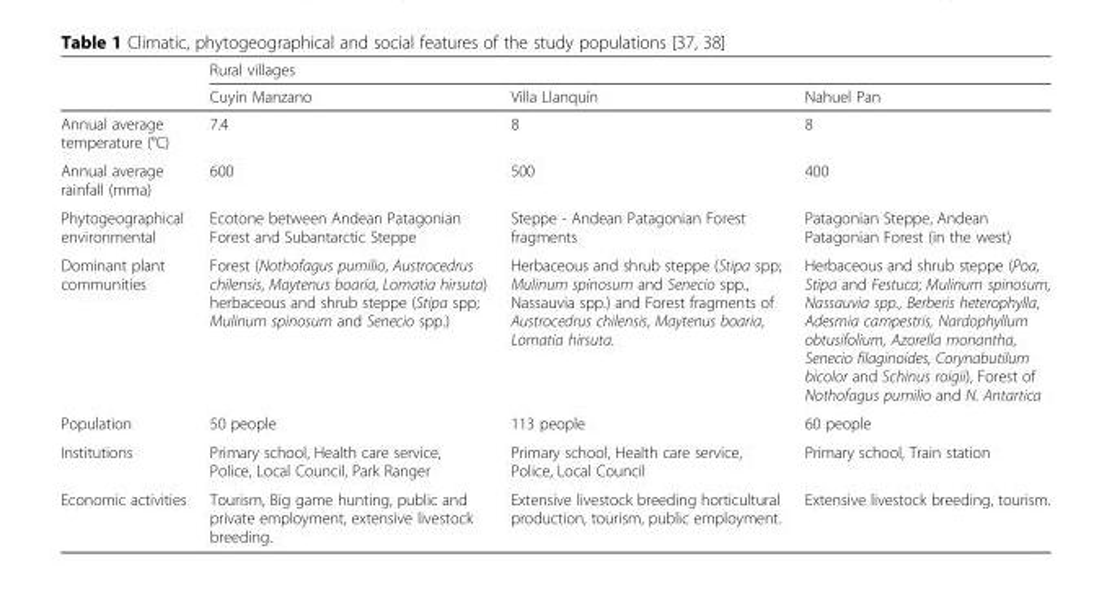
<table><thead><tr><td rowspan="2"></td><td colspan="3">Rural villages</td></tr><tr><td>Cuyín Manzano</td><td>Villa Llanquín</td><td>Nahuel Pan</td></tr></thead><tbody><tr><td>Annual average temperature (°C)</td><td>7.4</td><td>8</td><td>8</td></tr><tr><td>Annual average rainfall (mma)</td><td>600</td><td>500</td><td>400</td></tr><tr><td>Phytogeographical environmental</td><td>Ecotone between Andean Patagonian Forest and Subantarctic Steppe</td><td>Steppe - Andean Patagonian Forest fragments</td><td>Patagonian Steppe, Andean Patagonian Forest (in the west)</td></tr><tr><td>Dominant plant communities</td><td>Forest (Nothofagus pumilio, Austrocedrus chilensis, Maytenus boaria, Lomatia hirsuta) herbaceous and shrub steppe (Stipa spp; Mulinum spinosum and Senecio spp.)</td><td>Herbaceous and shrub steppe (Stipa spp; Mulinum spinosum and Senecio spp., Nassauvia spp.) and Forest fragments of Austrocedrus chilensis, Maytenus boaria, Lomatia hirsuta.</td><td>Herbaceous and shrub steppe (Poa, Stipa and Festuca; Mulinum spinosum, Nassauvia spp., Berberis heterophylla, Adesmia campestris, Nardophyllum obtusifolium, Azorella monantha, Senecio filaginoides, Corynabutilum bicolor and Schinus roigii), Forest of Nothofagus pumilio and N. Antartica</td></tr><tr><td>Population</td><td>50 people</td><td>113 people</td><td>60 people</td></tr><tr><td>Institutions</td><td>Primary school, Health care service, Police, Local Council, Park Ranger</td><td>Primary school, Health care service, Police, Local Council</td><td>Primary school, Train station</td></tr><tr><td>Economic activities</td><td>Tourism, Big game hunting, public and private employment, extensive livestock breeding.</td><td>Extensive livestock breeding horticultural production, tourism, public employment.</td><td>Extensive livestock breeding, tourism.</td></tr></tbody></table>